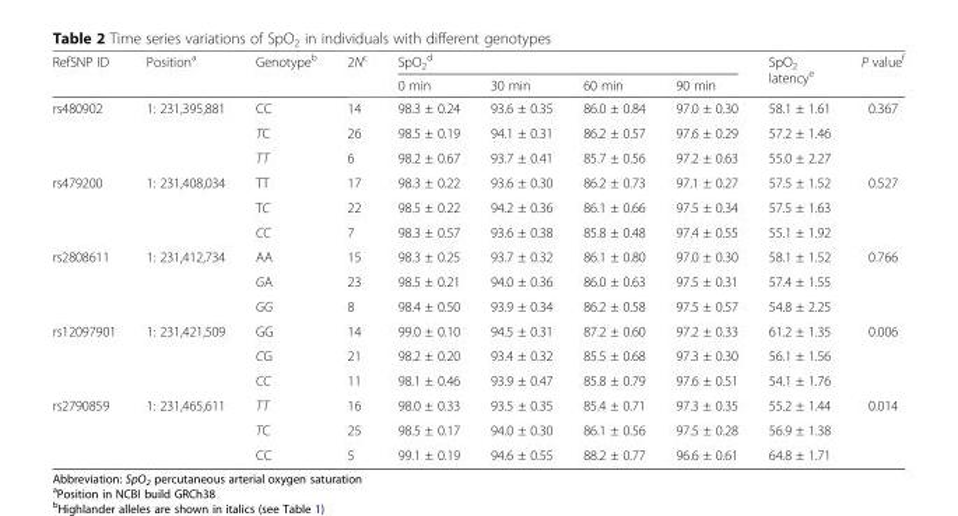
<table><thead><tr><td rowspan="2">RefSNP ID</td><td rowspan="2">Position<sup>a</sup></td><td rowspan="2">Genotype<sup>b</sup></td><td rowspan="2">2N<sup>c</sup></td><td colspan="4">SpO<sub>2</sub> <sup>d</sup></td><td rowspan="2">SpO<sub>2</sub> latency<sup>e</sup></td><td rowspan="2">P value<sup>f</sup></td></tr><tr><td>0 min</td><td>30 min</td><td>60 min</td><td>90 min</td></tr></thead><tbody><tr><td rowspan="3">rs480902</td><td rowspan="3">1: 231,395,881</td><td>CC</td><td>14</td><td>98.3 ± 0.24</td><td>93.6 ± 0.35</td><td>86.0 ± 0.84</td><td>97.0 ± 0.30</td><td>58.1 ± 1.61</td><td rowspan="3">0.367</td></tr><tr><td>TC</td><td>26</td><td>98.5 ± 0.19</td><td>94.1 ± 0.31</td><td>86.2 ± 0.57</td><td>97.6 ± 0.29</td><td>57.2 ± 1.46</td></tr><tr><td>TT</td><td>6</td><td>98.2 ± 0.67</td><td>93.7 ± 0.41</td><td>85.7 ± 0.56</td><td>97.2 ± 0.63</td><td>55.0 ± 2.27</td></tr><tr><td rowspan="3">rs479200</td><td rowspan="3">1: 231,408,034</td><td>TT</td><td>17</td><td>98.3 ± 0.22</td><td>93.6 ± 0.30</td><td>86.2 ± 0.73</td><td>97.1 ± 0.27</td><td>57.5 ± 1.52</td><td rowspan="3">0.527</td></tr><tr><td>TC</td><td>22</td><td>98.5 ± 0.22</td><td>94.2 ± 0.36</td><td>86.1 ± 0.66</td><td>97.5 ± 0.34</td><td>57.5 ± 1.63</td></tr><tr><td>CC</td><td>7</td><td>98.3 ± 0.57</td><td>93.6 ± 0.38</td><td>85.8 ± 0.48</td><td>97.4 ± 0.55</td><td>55.1 ± 1.92</td></tr><tr><td rowspan="3">rs2808611</td><td rowspan="3">1: 231,412,734</td><td>AA</td><td>15</td><td>98.3 ± 0.25</td><td>93.7 ± 0.32</td><td>86.1 ± 0.80</td><td>97.0 ± 0.30</td><td>58.1 ± 1.52</td><td rowspan="3">0.766</td></tr><tr><td>GA</td><td>23</td><td>98.5 ± 0.21</td><td>94.0 ± 0.36</td><td>86.0 ± 0.63</td><td>97.5 ± 0.31</td><td>57.4 ± 1.55</td></tr><tr><td>GG</td><td>8</td><td>98.4 ± 0.50</td><td>93.9 ± 0.34</td><td>86.2 ± 0.58</td><td>97.5 ± 0.57</td><td>54.8 ± 2.25</td></tr><tr><td rowspan="3">rs12097901</td><td rowspan="3">1: 231,421,509</td><td>GG</td><td>14</td><td>99.0 ± 0.10</td><td>94.5 ± 0.31</td><td>87.2 ± 0.60</td><td>97.2 ± 0.33</td><td>61.2 ± 1.35</td><td rowspan="3">0.006</td></tr><tr><td>CG</td><td>21</td><td>98.2 ± 0.20</td><td>93.4 ± 0.32</td><td>85.5 ± 0.68</td><td>97.3 ± 0.30</td><td>56.1 ± 1.56</td></tr><tr><td>CC</td><td>11</td><td>98.1 ± 0.46</td><td>93.9 ± 0.47</td><td>85.8 ± 0.79</td><td>97.6 ± 0.51</td><td>54.1 ± 1.76</td></tr><tr><td rowspan="3">rs2790859</td><td rowspan="3">1: 231,465,611</td><td>TT</td><td>16</td><td>98.0 ± 0.33</td><td>93.5 ± 0.35</td><td>85.4 ± 0.71</td><td>97.3 ± 0.35</td><td>55.2 ± 1.44</td><td rowspan="3">0.014</td></tr><tr><td>TC</td><td>25</td><td>98.5 ± 0.17</td><td>94.0 ± 0.30</td><td>86.1 ± 0.56</td><td>97.5 ± 0.28</td><td>56.9 ± 1.38</td></tr><tr><td>CC</td><td>5</td><td>99.1 ± 0.19</td><td>94.6 ± 0.55</td><td>88.2 ± 0.77</td><td>96.6 ± 0.61</td><td>64.8 ± 1.71</td></tr></tbody></table>